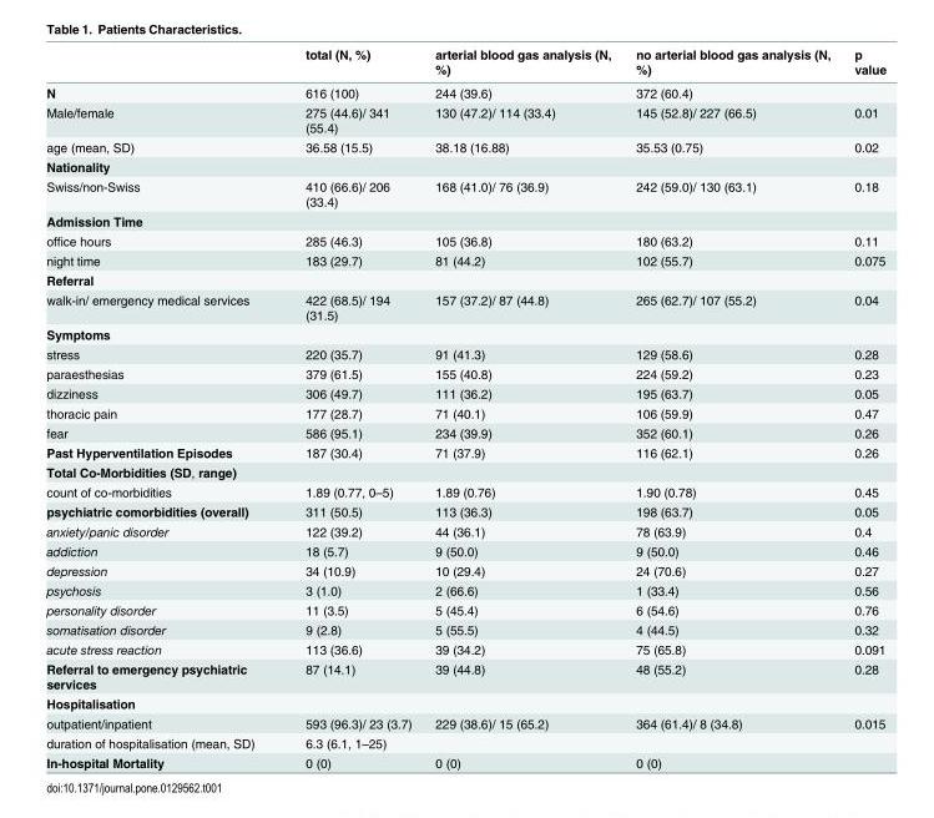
<table><thead><tr><td></td><td>total (N, %)</td><td>arterial blood gas analysis (N, %)</td><td>no arterial blood gas analysis (N, %)</td><td>p value</td></tr></thead><tbody><tr><td>N</td><td>616 (100)</td><td>244 (39.6)</td><td>372 (60.4)</td><td></td></tr><tr><td>Male/female</td><td>275 (44.6)/ 341 (55.4)</td><td>130 (47.2)/ 114 (33.4)</td><td>145 (52.8)/ 227 (66.5)</td><td>0.01</td></tr><tr><td>age (mean, SD)</td><td>36.58 (15.5)</td><td>38.18 (16.88)</td><td>35.53 (0.75)</td><td>0.02</td></tr><tr><td colspan="5">Nationality</td></tr><tr><td>Swiss/non-Swiss</td><td>410 (66.6)/ 206 (33.4)</td><td>168 (41.0)/ 76 (36.9)</td><td>242 (59.0)/ 130 (63.1)</td><td>0.18</td></tr><tr><td colspan="5">Admission Time</td></tr><tr><td>office hours</td><td>285 (46.3)</td><td>105 (36.8)</td><td>180 (63.2)</td><td>0.11</td></tr><tr><td>night time</td><td>183 (29.7)</td><td>81 (44.2)</td><td>102 (55.7)</td><td>0.075</td></tr><tr><td colspan="5">Referral</td></tr><tr><td>walk-in/ emergency medical services</td><td>422 (68.5)/ 194 (31.5)</td><td>157 (37.2)/ 87 (44.8)</td><td>265 (62.7)/ 107 (55.2)</td><td>0.04</td></tr><tr><td colspan="5">Symptoms</td></tr><tr><td>stress</td><td>220 (35.7)</td><td>91 (41.3)</td><td>129 (58.6)</td><td>0.28</td></tr><tr><td>paraesthesias</td><td>379 (61.5)</td><td>155 (40.8)</td><td>224 (59.2)</td><td>0.23</td></tr><tr><td>dizziness</td><td>306 (49.7)</td><td>111 (36.2)</td><td>195 (63.7)</td><td>0.05</td></tr><tr><td>thoracic pain</td><td>177 (28.7)</td><td>71 (40.1)</td><td>106 (59.9)</td><td>0.47</td></tr><tr><td>fear</td><td>586 (95.1)</td><td>234 (39.9)</td><td>352 (60.1)</td><td>0.26</td></tr><tr><td>Past Hyperventilation Episodes</td><td>187 (30.4)</td><td>71 (37.9)</td><td>116 (62.1)</td><td>0.26</td></tr><tr><td colspan="5">Total Co-Morbidities (SD, range)</td></tr><tr><td>count of co-morbidities</td><td>1.89 (0.77, 0–5)</td><td>1.89 (0.76)</td><td>1.90 (0.78)</td><td>0.45</td></tr><tr><td>psychiatric comorbidities (overall)</td><td>311 (50.5)</td><td>113 (36.3)</td><td>198 (63.7)</td><td>0.05</td></tr><tr><td>anxiety/panic disorder</td><td>122 (39.2)</td><td>44 (36.1)</td><td>78 (63.9)</td><td>0.4</td></tr><tr><td>addiction</td><td>18 (5.7)</td><td>9 (50.0)</td><td>9 (50.0)</td><td>0.46</td></tr><tr><td>depression</td><td>34 (10.9)</td><td>10 (29.4)</td><td>24 (70.6)</td><td>0.27</td></tr><tr><td>psychosis</td><td>3 (1.0)</td><td>2 (66.6)</td><td>1 (33.4)</td><td>0.56</td></tr><tr><td>personality disorder</td><td>11 (3.5)</td><td>5 (45.4)</td><td>6 (54.6)</td><td>0.76</td></tr><tr><td>somatisation disorder</td><td>9 (2.8)</td><td>5 (55.5)</td><td>4 (44.5)</td><td>0.32</td></tr><tr><td>acute stress reaction</td><td>113 (36.6)</td><td>39 (34.2)</td><td>75 (65.8)</td><td>0.091</td></tr><tr><td>Referral to emergency psychiatric services</td><td>87 (14.1)</td><td>39 (44.8)</td><td>48 (55.2)</td><td>0.28</td></tr><tr><td colspan="5">Hospitalisation</td></tr><tr><td>outpatient/inpatient</td><td>593 (96.3)/ 23 (3.7)</td><td>229 (38.6)/ 15 (65.2)</td><td>364 (61.4)/ 8 (34.8)</td><td>0.015</td></tr><tr><td>duration of hospitalisation (mean, SD)</td><td>6.3 (6.1, 1–25)</td><td></td><td></td><td></td></tr><tr><td>In-hospital Mortality</td><td>0 (0)</td><td>0 (0)</td><td>0 (0)</td><td></td></tr></tbody></table>